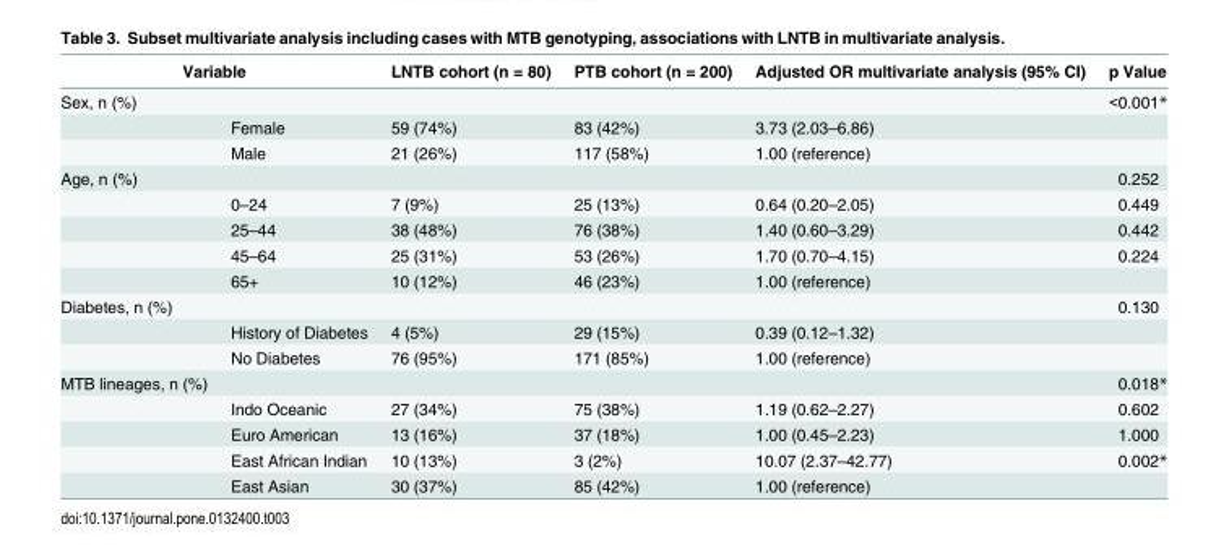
<table><thead><tr><td colspan="2">Variable</td><td rowspan="2">LNTB cohort (n = 80)</td><td rowspan="2">PTB cohort (n = 200)</td><td rowspan="2">Adjusted OR multivariate analysis (95% CI)</td><td rowspan="2">p Value &lt;0.001*</td></tr><tr><td>Sex, n (%)</td><td></td></tr></thead><tbody><tr><td></td><td>Female</td><td>59 (74%)</td><td>83 (42%)</td><td>3.73 (2.03–6.86)</td><td></td></tr><tr><td></td><td>Male</td><td>21 (26%)</td><td>117 (58%)</td><td>1.00 (reference)</td><td></td></tr><tr><td rowspan="5">Age, n (%)</td><td></td><td></td><td></td><td></td><td>0.252</td></tr><tr><td>0–24</td><td>7 (9%)</td><td>25 (13%)</td><td>0.64 (0.20–2.05)</td><td>0.449</td></tr><tr><td>25–44</td><td>38 (48%)</td><td>76 (38%)</td><td>1.40 (0.60–3.29)</td><td>0.442</td></tr><tr><td>45–64</td><td>25 (31%)</td><td>53 (26%)</td><td>1.70 (0.70–4.15)</td><td>0.224</td></tr><tr><td>65+</td><td>10 (12%)</td><td>46 (23%)</td><td>1.00 (reference)</td><td></td></tr><tr><td rowspan="3">Diabetes, n (%)</td><td></td><td></td><td></td><td></td><td>0.130</td></tr><tr><td>History of Diabetes</td><td>4 (5%)</td><td>29 (15%)</td><td>0.39 (0.12–1.32)</td><td></td></tr><tr><td>No Diabetes</td><td>76 (95%)</td><td>171 (85%)</td><td>1.00 (reference)</td><td></td></tr><tr><td rowspan="5">MTB lineages, n (%)</td><td></td><td></td><td></td><td></td><td>0.018*</td></tr><tr><td>Indo Oceanic</td><td>27 (34%)</td><td>75 (38%)</td><td>1.19 (0.62–2.27)</td><td>0.602</td></tr><tr><td>Euro American</td><td>13 (16%)</td><td>37 (18%)</td><td>1.00 (0.45–2.23)</td><td>1.000</td></tr><tr><td>East African Indian</td><td>10 (13%)</td><td>3 (2%)</td><td>10.07 (2.37–42.77)</td><td>0.002*</td></tr><tr><td>East Asian</td><td>30 (37%)</td><td>85 (42%)</td><td>1.00 (reference)</td><td></td></tr></tbody></table>